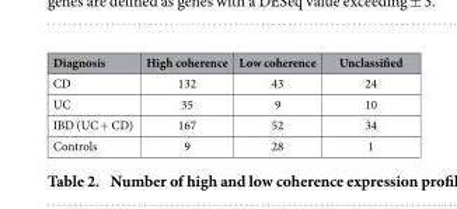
<table><thead><tr><td>Diagnosis</td><td>High coherence</td><td>Low coherence</td><td>Unclassified</td></tr></thead><tbody><tr><td>CD</td><td>132</td><td>43</td><td>24</td></tr><tr><td>UC</td><td>35</td><td>9</td><td>10</td></tr><tr><td>IBD (UC + CD)</td><td>167</td><td>52</td><td>34</td></tr><tr><td>Controls</td><td>9</td><td>28</td><td>1</td></tr></tbody></table>